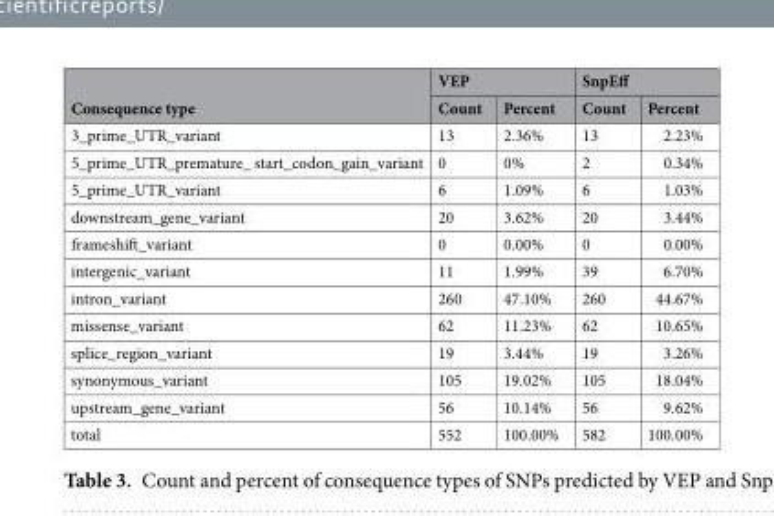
<table><thead><tr><td rowspan="2">Consequence type</td><td colspan="2">VEP</td><td colspan="2">SnpEff</td></tr><tr><td>Count</td><td>Percent</td><td>Count</td><td>Percent</td></tr></thead><tbody><tr><td>3_prime_UTR_variant</td><td>13</td><td>2.36%</td><td>13</td><td>2.23%</td></tr><tr><td>5_prime_UTR_premature_ start_codon_gain_variant</td><td>0</td><td>0%</td><td>2</td><td>0.34%</td></tr><tr><td>5_prime_UTR_variant</td><td>6</td><td>1.09%</td><td>6</td><td>1.03%</td></tr><tr><td>downstream_gene_variant</td><td>20</td><td>3.62%</td><td>20</td><td>3.44%</td></tr><tr><td>frameshift_variant</td><td>0</td><td>0.00%</td><td>0</td><td>0.00%</td></tr><tr><td>intergenic_variant</td><td>11</td><td>1.99%</td><td>39</td><td>6.70%</td></tr><tr><td>intron_variant</td><td>260</td><td>47.10%</td><td>260</td><td>44.67%</td></tr><tr><td>missense_variant</td><td>62</td><td>11.23%</td><td>62</td><td>10.65%</td></tr><tr><td>splice_region_variant</td><td>19</td><td>3.44%</td><td>19</td><td>3.26%</td></tr><tr><td>synonymous_variant</td><td>105</td><td>19.02%</td><td>105</td><td>18.04%</td></tr><tr><td>upstream_gene_variant</td><td>56</td><td>10.14%</td><td>56</td><td>9.62%</td></tr><tr><td>total</td><td>552</td><td>100.00%</td><td>582</td><td>100.00%</td></tr></tbody></table>